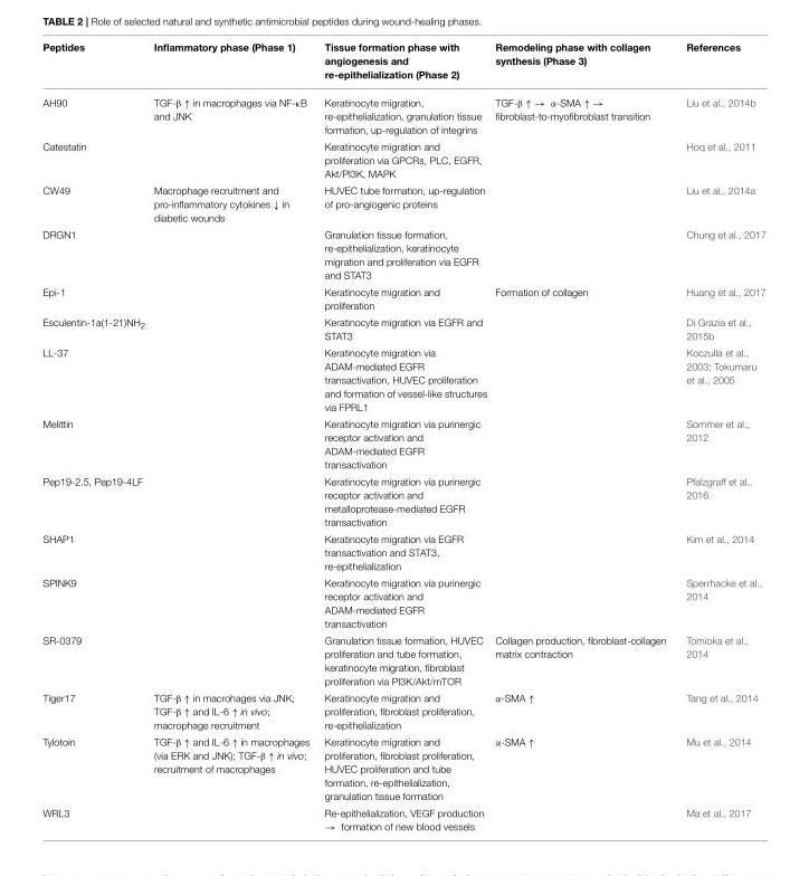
<table><thead><tr><td>Peptides</td><td>Inflammatory phase (Phase 1)</td><td>Tissue formation phase with angiogenesis and re-epithelialization (Phase 2)</td><td>Remodeling phase with collagen synthesis (Phase 3)</td><td>References</td></tr></thead><tbody><tr><td>AH90</td><td>TGF-β ↑ in macrophages via NF-κB and JNK</td><td>Keratinocyte migration, re-epithelialization, granulation tissue formation, up-regulation of integrins</td><td>TGF-β ↑ → α-SMA ↑ → fibroblast-to-myofibroblast transition</td><td>Liu et al., 2014b</td></tr><tr><td>Catestatin</td><td></td><td>Keratinocyte migration and proliferation via GPCRs, PLC, EGFR, Akt/PI3K, MAPK</td><td></td><td>Hoq et al., 2011</td></tr><tr><td>CW49</td><td>Macrophage recruitment and pro-inflammatory cytokines ↓ in diabetic wounds</td><td>HUVEC tube formation, up-regulation of pro-angiogenic proteins</td><td></td><td>Liu et al., 2014a</td></tr><tr><td>DRGN1</td><td></td><td>Granulation tissue formation, re-epithelialization, keratinocyte migration and proliferation via EGFR and STAT3</td><td></td><td>Chung et al., 2017</td></tr><tr><td>Epi-1</td><td></td><td>Keratinocyte migration and proliferation</td><td>Formation of collagen</td><td>Huang et al., 2017</td></tr><tr><td>Esculentin-1a(1-21)NH<sub>2</sub></td><td></td><td>Keratinocyte migration via EGFR and STAT3</td><td></td><td>Di Grazia et al., 2015b</td></tr><tr><td>LL-37</td><td></td><td>Keratinocyte migration via ADAM-mediated EGFR transactivation, HUVEC proliferation and formation of vessel-like structures via FPRL1</td><td></td><td>Koczulla et al., 2003; Tokumaru et al., 2005</td></tr><tr><td>Melittin</td><td></td><td>Keratinocyte migration via purinergic receptor activation and ADAM-mediated EGFR transactivation</td><td></td><td>Sommer et al., 2012</td></tr><tr><td>Pep19-2.5, Pep19-4LF</td><td></td><td>Keratinocyte migration via purinergic receptor activation and metalloprotease-mediated EGFR transactivation</td><td></td><td>Pfalzgraff et al., 2016</td></tr><tr><td>SHAP1</td><td></td><td>Keratinocyte migration via EGFR transactivation and STAT3, re-epithelialization</td><td></td><td>Kim et al., 2014</td></tr><tr><td>SPINK9</td><td></td><td>Keratinocyte migration via purinergic receptor activation and ADAM-mediated EGFR transactivation</td><td></td><td>Sperrhacke et al., 2014</td></tr><tr><td>SR-0379</td><td></td><td>Granulation tissue formation, HUVEC proliferation and tube formation, keratinocyte migration, fibroblast proliferation via PI3K/Akt/mTOR</td><td>Collagen production, fibroblast-collagen matrix contraction</td><td>Tomioka et al., 2014</td></tr><tr><td>Tiger17</td><td>TGF-β ↑ in macrohages via JNK; TGF-β ↑ and IL-6 ↑ in vivo; macrophage recruitment</td><td>Keratinocyte migration and proliferation, fibroblast proliferation, re-epithelialization</td><td>α-SMA ↑</td><td>Tang et al., 2014</td></tr><tr><td>Tylotoin</td><td>TGF-β ↑ and IL-6 ↑ in macrophages (via ERK and JNK); TGF-β ↑ in vivo; recruitment of macrophages</td><td>Keratinocyte migration and proliferation, fibroblast proliferation, HUVEC proliferation and tube formation, re-epithelialization, granulation tissue formation</td><td>α-SMA ↑</td><td>Mu et al., 2014</td></tr><tr><td>WRL3</td><td></td><td>Re-epithelialization, VEGF production → formation of new blood vessels</td><td></td><td>Ma et al., 2017</td></tr></tbody></table>